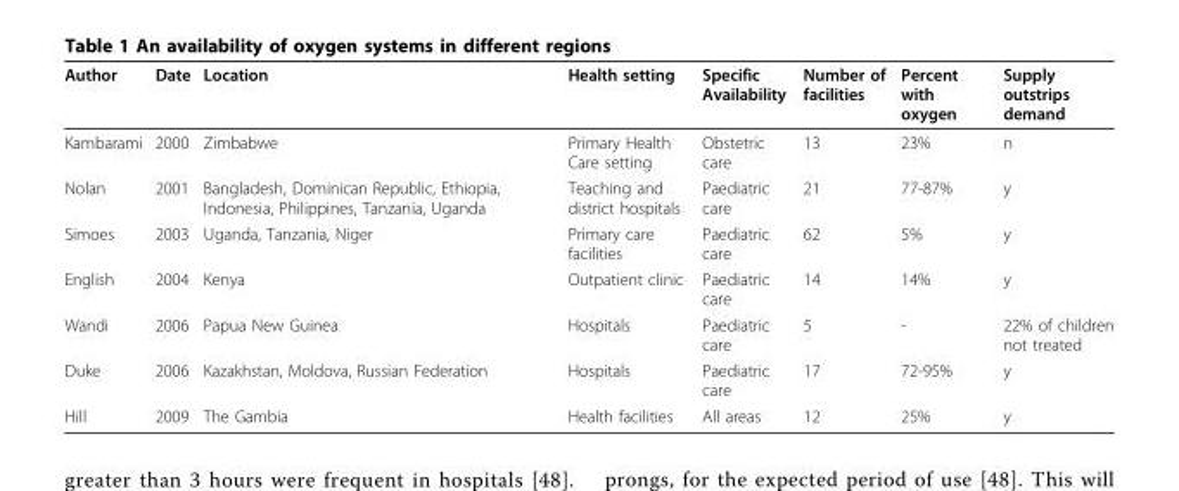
<table><thead><tr><td>Author</td><td>Date</td><td>Location</td><td>Health setting</td><td>Specific Availability</td><td>Number of facilities</td><td>Percent with oxygen</td><td>Supply outstrips demand</td></tr></thead><tbody><tr><td>Kambarami</td><td>2000</td><td>Zimbabwe</td><td>Primary Health Care setting</td><td>Obstetric care</td><td>13</td><td>23%</td><td>n</td></tr><tr><td>Nolan</td><td>2001</td><td>Bangladesh, Dominican Republic, Ethiopia, Indonesia, Philippines, Tanzania, Uganda</td><td>Teaching and district hospitals</td><td>Paediatric care</td><td>21</td><td>77-87%</td><td>y</td></tr><tr><td>Simoes</td><td>2003</td><td>Uganda, Tanzania, Niger</td><td>Primary care facilities</td><td>Paediatric care</td><td>62</td><td>5%</td><td>y</td></tr><tr><td>English</td><td>2004</td><td>Kenya</td><td>Outpatient clinic</td><td>Paediatric care</td><td>14</td><td>14%</td><td>y</td></tr><tr><td>Wandi</td><td>2006</td><td>Papua New Guinea</td><td>Hospitals</td><td>Paediatric care</td><td>5</td><td>-</td><td>22% of children not treated</td></tr><tr><td>Duke</td><td>2006</td><td>Kazakhstan, Moldova, Russian Federation</td><td>Hospitals</td><td>Paediatric care</td><td>17</td><td>72-95%</td><td>y</td></tr><tr><td>Hill</td><td>2009</td><td>The Gambia</td><td>Health facilities</td><td>All areas</td><td>12</td><td>25%</td><td>y</td></tr></tbody></table>